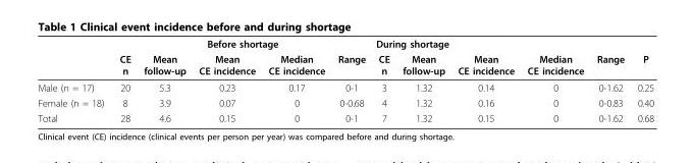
<table><thead><tr><td rowspan="2"></td><td colspan="5">Before shortage</td><td colspan="6">During shortage</td></tr><tr><td>CE n</td><td>Mean follow-up</td><td>Mean CE incidence</td><td>Median CE incidence</td><td>Range</td><td>CE n</td><td>Mean follow-up</td><td>Mean CE incidence</td><td>Median CE incidence</td><td>Range</td><td>P</td></tr></thead><tbody><tr><td>Male (n = 17)</td><td>20</td><td>5.3</td><td>0.23</td><td>0.17</td><td>0-1</td><td>3</td><td>1.32</td><td>0.14</td><td>0</td><td>0-1.62</td><td>0.25</td></tr><tr><td>Female (n = 18)</td><td>8</td><td>3.9</td><td>0.07</td><td>0</td><td>0-0.68</td><td>4</td><td>1.32</td><td>0.16</td><td>0</td><td>0-0.83</td><td>0.40</td></tr><tr><td>Total</td><td>28</td><td>4.6</td><td>0.15</td><td>0</td><td>0-1</td><td>7</td><td>1.32</td><td>0.15</td><td>0</td><td>0-1.62</td><td>0.68</td></tr></tbody></table>